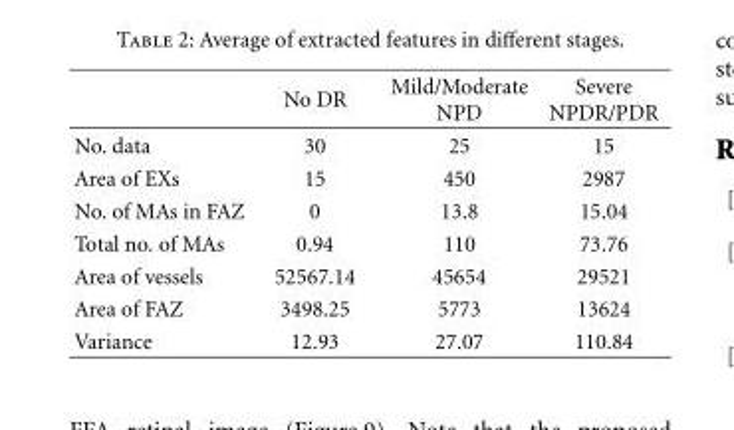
<table><thead><tr><td></td><td>No DR</td><td>Mild/Moderate NPD</td><td>Severe NPDR/PDR</td></tr></thead><tbody><tr><td>No. data</td><td>30</td><td>25</td><td>15</td></tr><tr><td>Area of EXs</td><td>15</td><td>450</td><td>2987</td></tr><tr><td>No. of MAs in FAZ</td><td>0</td><td>13.8</td><td>15.04</td></tr><tr><td>Total no. of MAs</td><td>0.94</td><td>110</td><td>73.76</td></tr><tr><td>Area of vessels</td><td>52567.14</td><td>45654</td><td>29521</td></tr><tr><td>Area of FAZ</td><td>3498.25</td><td>5773</td><td>13624</td></tr><tr><td>Variance</td><td>12.93</td><td>27.07</td><td>110.84</td></tr></tbody></table>